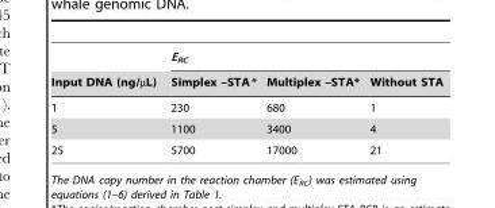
<table><thead><tr><td rowspan="2">Input DNA (ng/µL)</td><td colspan="3">E<sub>RC</sub></td></tr><tr><td>Simplex –STA*</td><td>Multiplex –STA*</td><td>Without STA</td></tr></thead><tbody><tr><td>1</td><td>230</td><td>680</td><td>1</td></tr><tr><td>5</td><td>1100</td><td>3400</td><td>4</td></tr><tr><td>25</td><td>5700</td><td>17000</td><td>21</td></tr></tbody></table>